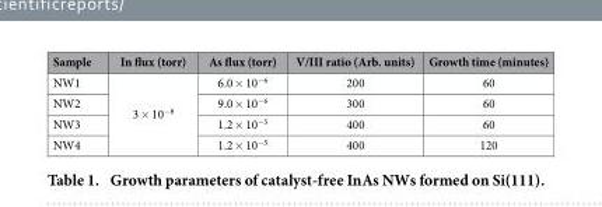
<table><thead><tr><td>Sample</td><td>In flux (torr)</td><td>As flux (torr)</td><td>V/III ratio (Arb. units)</td><td>Growth time (minutes)</td></tr></thead><tbody><tr><td>NW1</td><td rowspan="4">3 × 10<sup>−8</sup></td><td>6.0 × 10<sup>−6</sup></td><td>200</td><td>60</td></tr><tr><td>NW2</td><td>9.0 × 10<sup>−6</sup></td><td>300</td><td>60</td></tr><tr><td>NW3</td><td>1.2 × 10<sup>−5</sup></td><td>400</td><td>60</td></tr><tr><td>NW4</td><td>1.2 × 10<sup>−5</sup></td><td>400</td><td>120</td></tr></tbody></table>